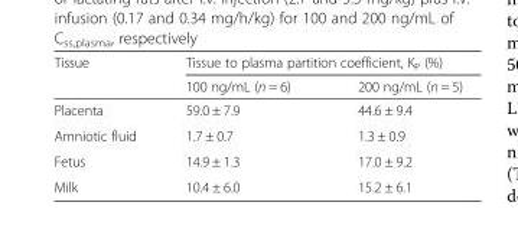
<table><thead><tr><td rowspan="2">Tissue</td><td colspan="2">Tissue to plasma partition coefficient, K<sub>P</sub> (%)</td></tr><tr><td>100 ng/mL (n = 6)</td><td>200 ng/mL (n = 5)</td></tr></thead><tbody><tr><td>Placenta</td><td>59.0 ± 7.9</td><td>44.6 ± 9.4</td></tr><tr><td>Amniotic fluid</td><td>1.7 ± 0.7</td><td>1.3 ± 0.9</td></tr><tr><td>Fetus</td><td>14.9 ± 1.3</td><td>17.0 ± 9.2</td></tr><tr><td>Milk</td><td>10.4 ± 6.0</td><td>15.2 ± 6.1</td></tr></tbody></table>